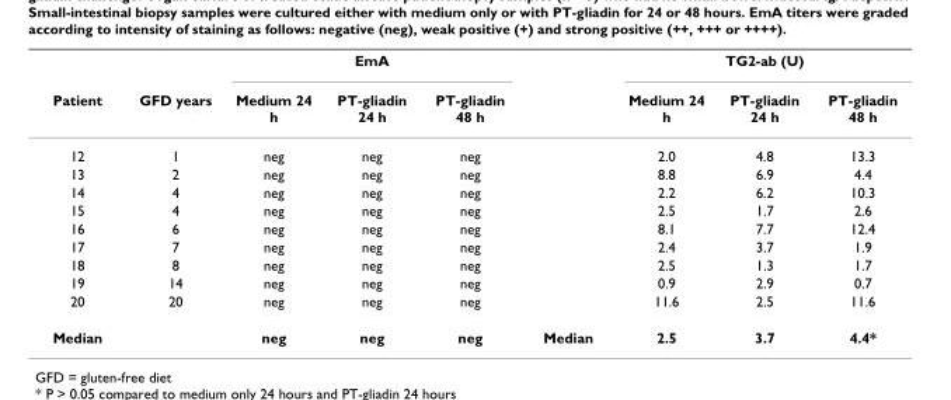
<table><thead><tr><td rowspan="2">Patient</td><td rowspan="2">GFD years</td><td colspan="3">EmA</td><td rowspan="2"></td><td colspan="3">TG2-ab (U)</td></tr><tr><td>Medium 24 h</td><td>PT-gliadin 24 h</td><td>PT-gliadin 48 h</td><td>Medium 24 h</td><td>PT-gliadin 24 h</td><td>PT-gliadin 48 h</td></tr></thead><tbody><tr><td>12</td><td>1</td><td>neg</td><td>neg</td><td>neg</td><td></td><td>2.0</td><td>4.8</td><td>13.3</td></tr><tr><td>13</td><td>2</td><td>neg</td><td>neg</td><td>neg</td><td></td><td>8.8</td><td>6.9</td><td>4.4</td></tr><tr><td>14</td><td>4</td><td>neg</td><td>neg</td><td>neg</td><td></td><td>2.2</td><td>6.2</td><td>10.3</td></tr><tr><td>15</td><td>4</td><td>neg</td><td>neg</td><td>neg</td><td></td><td>2.5</td><td>1.7</td><td>2.6</td></tr><tr><td>16</td><td>6</td><td>neg</td><td>neg</td><td>neg</td><td></td><td>8.1</td><td>7.7</td><td>12.4</td></tr><tr><td>17</td><td>7</td><td>neg</td><td>neg</td><td>neg</td><td></td><td>2.4</td><td>3.7</td><td>1.9</td></tr><tr><td>18</td><td>8</td><td>neg</td><td>neg</td><td>neg</td><td></td><td>2.5</td><td>1.3</td><td>1.7</td></tr><tr><td>19</td><td>14</td><td>neg</td><td>neg</td><td>neg</td><td></td><td>0.9</td><td>2.9</td><td>0.7</td></tr><tr><td>20</td><td>20</td><td>neg</td><td>neg</td><td>neg</td><td></td><td>11.6</td><td>2.5</td><td>11.6</td></tr><tr><td>Median</td><td></td><td>neg</td><td>neg</td><td>neg</td><td>Median</td><td>2.5</td><td>3.7</td><td>4.4*</td></tr></tbody></table>